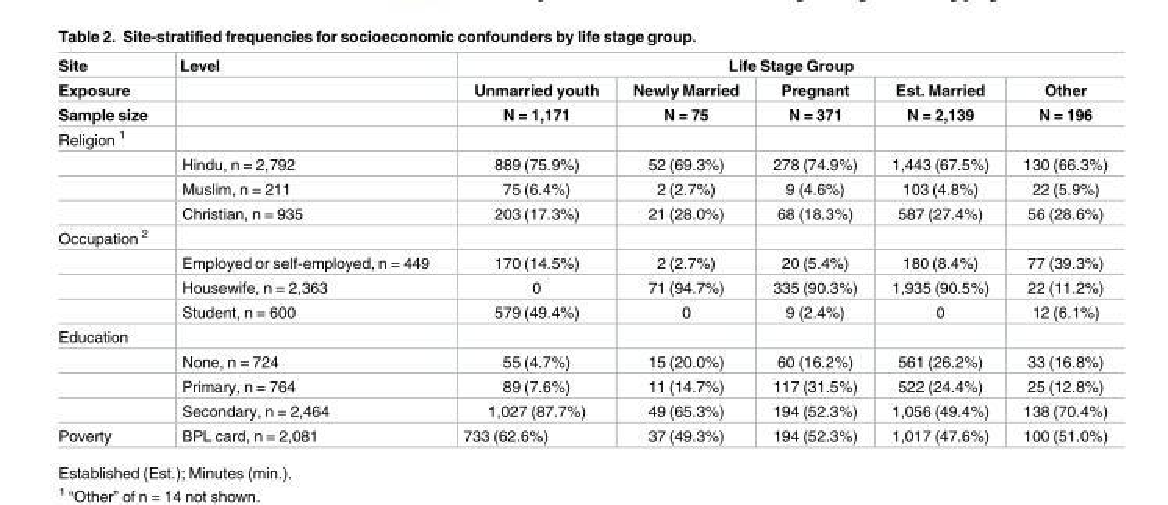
<table><thead><tr><td rowspan="3">Site Exposure Sample size</td><td rowspan="3">Level</td><td colspan="5">Life Stage Group</td></tr><tr><td rowspan="2">Unmarried youth N = 1,171</td><td rowspan="2">Newly Married N = 75</td><td rowspan="2">Pregnant N = 371</td><td rowspan="2">Est. Married N = 2,139</td><td rowspan="2">Other N = 196</td></tr><tr></tr></thead><tbody><tr><td colspan="7">Religion <sup>1</sup></td></tr><tr><td></td><td>Hindu, n = 2,792</td><td>889 (75.9%)</td><td>52 (69.3%)</td><td>278 (74.9%)</td><td>1,443 (67.5%)</td><td>130 (66.3%)</td></tr><tr><td></td><td>Muslim, n = 211</td><td>75 (6.4%)</td><td>2 (2.7%)</td><td>9 (4.6%)</td><td>103 (4.8%)</td><td>22 (5.9%)</td></tr><tr><td></td><td>Christian, n = 935</td><td>203 (17.3%)</td><td>21 (28.0%)</td><td>68 (18.3%)</td><td>587 (27.4%)</td><td>56 (28.6%)</td></tr><tr><td colspan="7">Occupation <sup>2</sup></td></tr><tr><td></td><td>Employed or self-employed, n = 449</td><td>170 (14.5%)</td><td>2 (2.7%)</td><td>20 (5.4%)</td><td>180 (8.4%)</td><td>77 (39.3%)</td></tr><tr><td></td><td>Housewife, n = 2,363</td><td>0</td><td>71 (94.7%)</td><td>335 (90.3%)</td><td>1,935 (90.5%)</td><td>22 (11.2%)</td></tr><tr><td></td><td>Student, n = 600</td><td>579 (49.4%)</td><td>0</td><td>9 (2.4%)</td><td>0</td><td>12 (6.1%)</td></tr><tr><td colspan="7">Education</td></tr><tr><td></td><td>None, n = 724</td><td>55 (4.7%)</td><td>15 (20.0%)</td><td>60 (16.2%)</td><td>561 (26.2%)</td><td>33 (16.8%)</td></tr><tr><td></td><td>Primary, n = 764</td><td>89 (7.6%)</td><td>11 (14.7%)</td><td>117 (31.5%)</td><td>522 (24.4%)</td><td>25 (12.8%)</td></tr><tr><td></td><td>Secondary, n = 2,464</td><td>1,027 (87.7%)</td><td>49 (65.3%)</td><td>194 (52.3%)</td><td>1,056 (49.4%)</td><td>138 (70.4%)</td></tr><tr><td>Poverty</td><td>BPL card, n = 2,081</td><td>733 (62.6%)</td><td>37 (49.3%)</td><td>194 (52.3%)</td><td>1,017 (47.6%)</td><td>100 (51.0%)</td></tr></tbody></table>